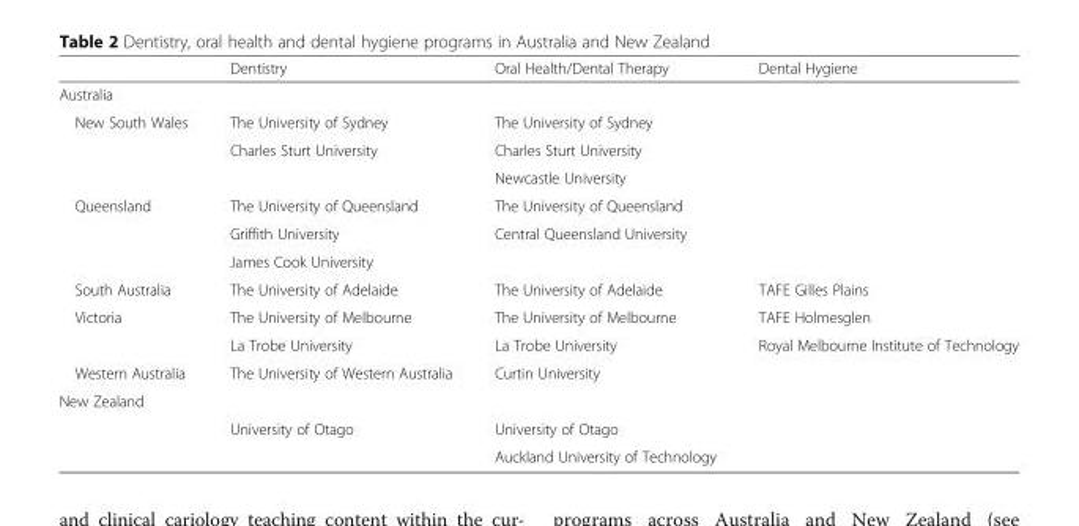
<table><thead><tr><td></td><td>Dentistry</td><td>Oral Health/Dental Therapy</td><td>Dental Hygiene</td></tr></thead><tbody><tr><td colspan="4">Australia</td></tr><tr><td rowspan="3">New South Wales</td><td>The University of Sydney</td><td>The University of Sydney</td><td></td></tr><tr><td>Charles Sturt University</td><td>Charles Sturt University</td><td></td></tr><tr><td></td><td>Newcastle University</td><td></td></tr><tr><td rowspan="3">Queensland</td><td>The University of Queensland</td><td>The University of Queensland</td><td></td></tr><tr><td>Griffith University</td><td>Central Queensland University</td><td></td></tr><tr><td>James Cook University</td><td></td><td></td></tr><tr><td>South Australia</td><td>The University of Adelaide</td><td>The University of Adelaide</td><td>TAFE Gilles Plains</td></tr><tr><td rowspan="2">Victoria</td><td>The University of Melbourne</td><td>The University of Melbourne</td><td>TAFE Holmesglen</td></tr><tr><td>La Trobe University</td><td>La Trobe University</td><td>Royal Melbourne Institute of Technology</td></tr><tr><td>Western Australia</td><td>The University of Western Australia</td><td>Curtin University</td><td></td></tr><tr><td colspan="4">New Zealand</td></tr><tr><td rowspan="2"></td><td rowspan="2">University of Otago</td><td>University of Otago</td><td></td></tr><tr><td>Auckland University of Technology</td><td></td></tr></tbody></table>